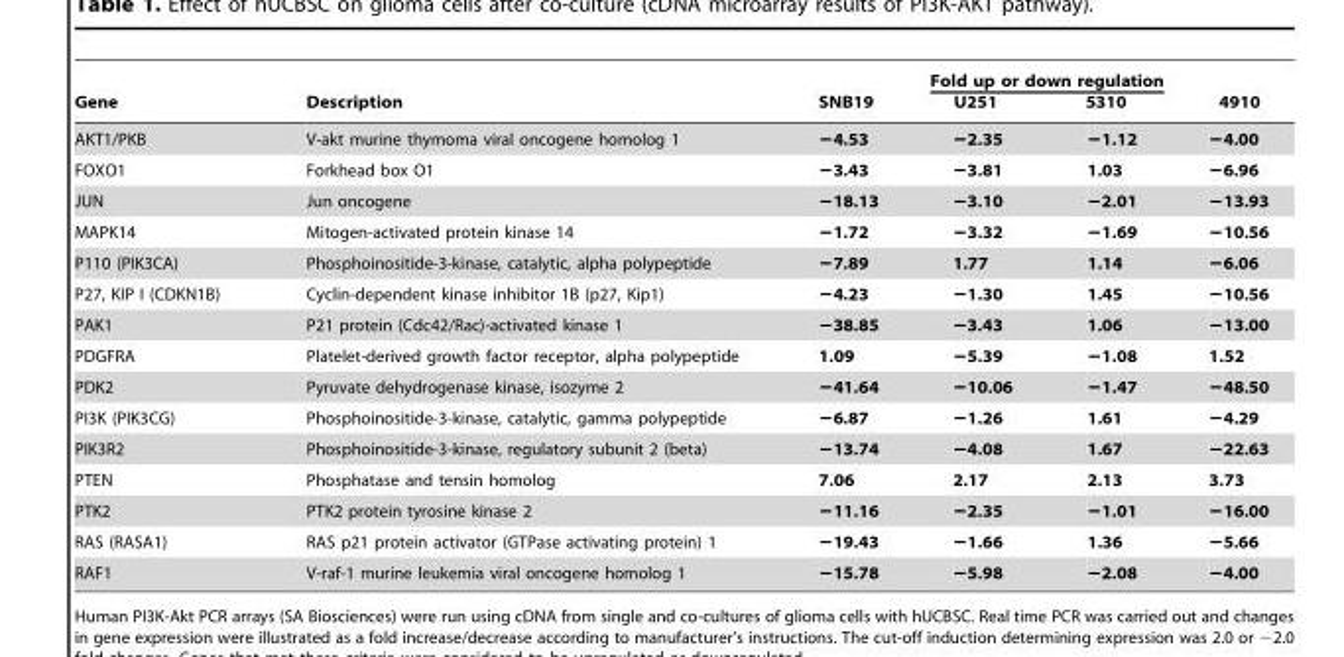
<table><thead><tr><td rowspan="2">Gene AKT1/PKB</td><td rowspan="2">Description V-akt murine thymoma viral oncogene homolog 1</td><td colspan="4">Fold up or down regulation SNB19 U251 5310 4910</td></tr><tr><td>−4.53</td><td>−2.35</td><td>−1.12</td><td>−4.00</td></tr></thead><tbody><tr><td>FOXO1</td><td>Forkhead box O1</td><td>−3.43</td><td>−3.81</td><td>1.03</td><td>−6.96</td></tr><tr><td>JUN</td><td>Jun oncogene</td><td>−18.13</td><td>−3.10</td><td>−2.01</td><td>−13.93</td></tr><tr><td>MAPK14</td><td>Mitogen-activated protein kinase 14</td><td>−1.72</td><td>−3.32</td><td>−1.69</td><td>−10.56</td></tr><tr><td>P110 (PIK3CA)</td><td>Phosphoinositide-3-kinase, catalytic, alpha polypeptide</td><td>−7.89</td><td>1.77</td><td>1.14</td><td>−6.06</td></tr><tr><td>P27, KIP I (CDKN1B)</td><td>Cyclin-dependent kinase inhibitor 1B (p27, Kip1)</td><td>−4.23</td><td>−1.30</td><td>1.45</td><td>−10.56</td></tr><tr><td>PAK1</td><td>P21 protein (Cdc42/Rac)-activated kinase 1</td><td>−38.85</td><td>−3.43</td><td>1.06</td><td>−13.00</td></tr><tr><td>PDGFRA</td><td>Platelet-derived growth factor receptor, alpha polypeptide</td><td>1.09</td><td>−5.39</td><td>−1.08</td><td>1.52</td></tr><tr><td>PDK2</td><td>Pyruvate dehydrogenase kinase, isozyme 2</td><td>−41.64</td><td>−10.06</td><td>−1.47</td><td>−48.50</td></tr><tr><td>PI3K (PIK3CG)</td><td>Phosphoinositide-3-kinase, catalytic, gamma polypeptide</td><td>−6.87</td><td>−1.26</td><td>1.61</td><td>−4.29</td></tr><tr><td>PIK3R2</td><td>Phosphoinositide-3-kinase, regulatory subunit 2 (beta)</td><td>−13.74</td><td>−4.08</td><td>1.67</td><td>−22.63</td></tr><tr><td>PTEN</td><td>Phosphatase and tensin homolog</td><td>7.06</td><td>2.17</td><td>2.13</td><td>3.73</td></tr><tr><td>PTK2</td><td>PTK2 protein tyrosine kinase 2</td><td>−11.16</td><td>−2.35</td><td>−1.01</td><td>−16.00</td></tr><tr><td>RAS (RASA1)</td><td>RAS p21 protein activator (GTPase activating protein) 1</td><td>−19.43</td><td>−1.66</td><td>1.36</td><td>−5.66</td></tr><tr><td>RAF1</td><td>V-raf-1 murine leukemia viral oncogene homolog 1</td><td>−15.78</td><td>−5.98</td><td>−2.08</td><td>−4.00</td></tr></tbody></table>